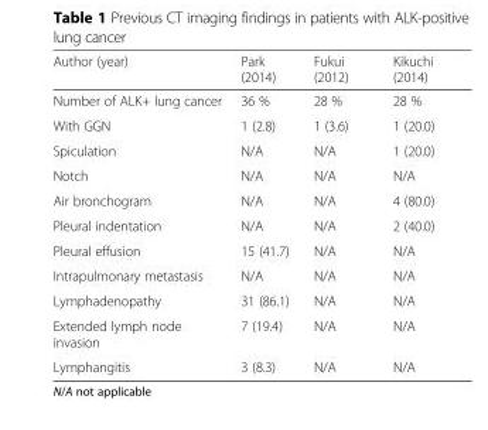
<table><thead><tr><td>Author (year)</td><td>Park (2014)</td><td>Fukui (2012)</td><td>Kikuchi (2014)</td></tr></thead><tbody><tr><td>Number of ALK+ lung cancer</td><td>36 %</td><td>28 %</td><td>28 %</td></tr><tr><td>With GGN</td><td>1 (2.8)</td><td>1 (3.6)</td><td>1 (20.0)</td></tr><tr><td>Spiculation</td><td>N/A</td><td>N/A</td><td>1 (20.0)</td></tr><tr><td>Notch</td><td>N/A</td><td>N/A</td><td>N/A</td></tr><tr><td>Air bronchogram</td><td>N/A</td><td>N/A</td><td>4 (80.0)</td></tr><tr><td>Pleural indentation</td><td>N/A</td><td>N/A</td><td>2 (40.0)</td></tr><tr><td>Pleural effusion</td><td>15 (41.7)</td><td>N/A</td><td>N/A</td></tr><tr><td>Intrapulmonary metastasis</td><td>N/A</td><td>N/A</td><td>N/A</td></tr><tr><td>Lymphadenopathy</td><td>31 (86.1)</td><td>N/A</td><td>N/A</td></tr><tr><td>Extended lymph node invasion</td><td>7 (19.4)</td><td>N/A</td><td>N/A</td></tr><tr><td>Lymphangitis</td><td>3 (8.3)</td><td>N/A</td><td>N/A</td></tr></tbody></table>